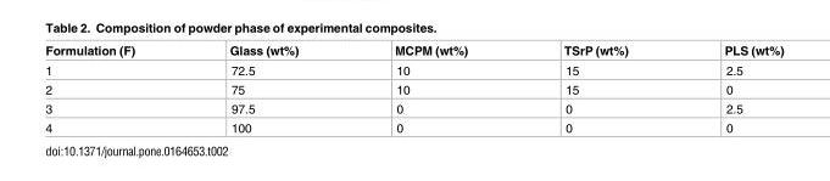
<table><thead><tr><td>Formulation (F)</td><td>Glass (wt%)</td><td>MCPM (wt%)</td><td>TSrP (wt%)</td><td>PLS (wt%)</td></tr></thead><tbody><tr><td>1</td><td>72.5</td><td>10</td><td>15</td><td>2.5</td></tr><tr><td>2</td><td>75</td><td>10</td><td>15</td><td>0</td></tr><tr><td>3</td><td>97.5</td><td>0</td><td>0</td><td>2.5</td></tr><tr><td>4</td><td>100</td><td>0</td><td>0</td><td>0</td></tr></tbody></table>